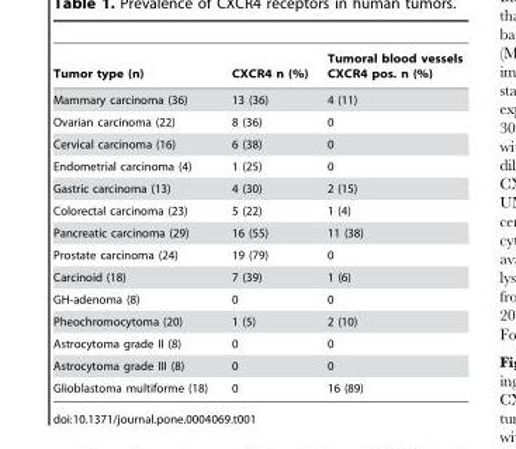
<table><thead><tr><td>Tumor type (n)</td><td>CXCR4 n (%)</td><td>Tumoral blood vessels CXCR4 pos. n (%)</td></tr></thead><tbody><tr><td>Mammary carcinoma (36)</td><td>13 (36)</td><td>4 (11)</td></tr><tr><td>Ovarian carcinoma (22)</td><td>8 (36)</td><td>0</td></tr><tr><td>Cervical carcinoma (16)</td><td>6 (38)</td><td>0</td></tr><tr><td>Endometrial carcinoma (4)</td><td>1 (25)</td><td>0</td></tr><tr><td>Gastric carcinoma (13)</td><td>4 (30)</td><td>2 (15)</td></tr><tr><td>Colorectal carcinoma (23)</td><td>5 (22)</td><td>1 (4)</td></tr><tr><td>Pancreatic carcinoma (29)</td><td>16 (55)</td><td>11 (38)</td></tr><tr><td>Prostate carcinoma (24)</td><td>19 (79)</td><td>0</td></tr><tr><td>Carcinoid (18)</td><td>7 (39)</td><td>1 (6)</td></tr><tr><td>GH-adenoma (8)</td><td>0</td><td>0</td></tr><tr><td>Pheochromocytoma (20)</td><td>1 (5)</td><td>2 (10)</td></tr><tr><td>Astrocytoma grade II (8)</td><td>0</td><td>0</td></tr><tr><td>Astrocytoma grade III (8)</td><td>0</td><td>0</td></tr><tr><td>Glioblastoma multiforme (18)</td><td>0</td><td>16 (89)</td></tr></tbody></table>